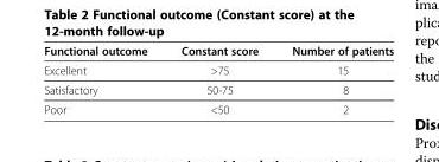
<table><thead><tr><td>Functional outcome</td><td>Constant score</td><td>Number of patients</td></tr></thead><tbody><tr><td>Excellent</td><td>&gt;75</td><td>15</td></tr><tr><td>Satisfactory</td><td>50-75</td><td>8</td></tr><tr><td>Poor</td><td>&lt;50</td><td>2</td></tr></tbody></table>